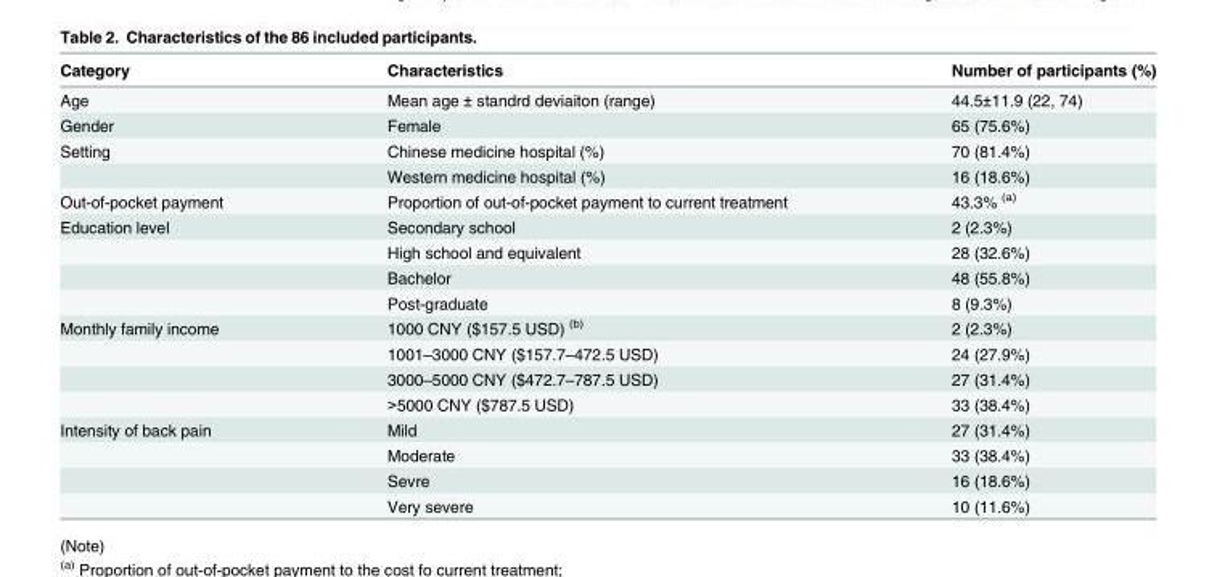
<table><thead><tr><td>Category</td><td>Characteristics</td><td>Number of participants (%)</td></tr></thead><tbody><tr><td>Age</td><td>Mean age ± standrd deviaiton (range)</td><td>44.5±11.9 (22, 74)</td></tr><tr><td>Gender</td><td>Female</td><td>65 (75.6%)</td></tr><tr><td rowspan="2">Setting</td><td>Chinese medicine hospital (%)</td><td>70 (81.4%)</td></tr><tr><td>Western medicine hospital (%)</td><td>16 (18.6%)</td></tr><tr><td>Out-of-pocket payment</td><td>Proportion of out-of-pocket payment to current treatment</td><td>43.3% <sup>(a)</sup></td></tr><tr><td rowspan="4">Education level</td><td>Secondary school</td><td>2 (2.3%)</td></tr><tr><td>High school and equivalent</td><td>28 (32.6%)</td></tr><tr><td>Bachelor</td><td>48 (55.8%)</td></tr><tr><td>Post-graduate</td><td>8 (9.3%)</td></tr><tr><td rowspan="4">Monthly family income</td><td>1000 CNY ($157.5 USD) <sup>(b)</sup></td><td>2 (2.3%)</td></tr><tr><td>1001–3000 CNY ($157.7–472.5 USD)</td><td>24 (27.9%)</td></tr><tr><td>3000–5000 CNY ($472.7–787.5 USD)</td><td>27 (31.4%)</td></tr><tr><td>&gt;5000 CNY ($787.5 USD)</td><td>33 (38.4%)</td></tr><tr><td rowspan="4">Intensity of back pain</td><td>Mild</td><td>27 (31.4%)</td></tr><tr><td>Moderate</td><td>33 (38.4%)</td></tr><tr><td>Sevre</td><td>16 (18.6%)</td></tr><tr><td>Very severe</td><td>10 (11.6%)</td></tr></tbody></table>